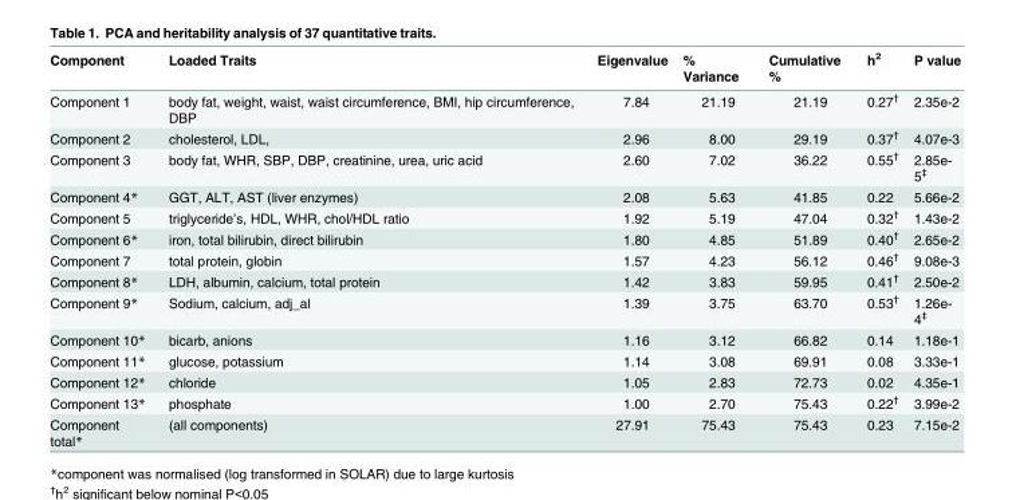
<table><thead><tr><td>Component</td><td>Loaded Traits</td><td>Eigenvalue</td><td>% Variance</td><td>Cumulative %</td><td>h<sup>2</sup></td><td>P value</td></tr></thead><tbody><tr><td>Component 1</td><td>body fat, weight, waist, waist circumference, BMI, hip circumference, DBP</td><td>7.84</td><td>21.19</td><td>21.19</td><td>0.27<sup>†</sup></td><td>2.35e-2</td></tr><tr><td>Component 2</td><td>cholesterol, LDL,</td><td>2.96</td><td>8.00</td><td>29.19</td><td>0.37<sup>†</sup></td><td>4.07e-3</td></tr><tr><td>Component 3</td><td>body fat, WHR, SBP, DBP, creatinine, urea, uric acid</td><td>2.60</td><td>7.02</td><td>36.22</td><td>0.55<sup>†</sup></td><td>2.85e- 5<sup>‡</sup></td></tr><tr><td>Component 4*</td><td>GGT, ALT, AST (liver enzymes)</td><td>2.08</td><td>5.63</td><td>41.85</td><td>0.22</td><td>5.66e-2</td></tr><tr><td>Component 5</td><td>triglyceride’s, HDL, WHR, chol/HDL ratio</td><td>1.92</td><td>5.19</td><td>47.04</td><td>0.32<sup>†</sup></td><td>1.43e-2</td></tr><tr><td>Component 6*</td><td>iron, total bilirubin, direct bilirubin</td><td>1.80</td><td>4.85</td><td>51.89</td><td>0.40<sup>†</sup></td><td>2.65e-2</td></tr><tr><td>Component 7</td><td>total protein, globin</td><td>1.57</td><td>4.23</td><td>56.12</td><td>0.46<sup>†</sup></td><td>9.08e-3</td></tr><tr><td>Component 8*</td><td>LDH, albumin, calcium, total protein</td><td>1.42</td><td>3.83</td><td>59.95</td><td>0.41<sup>†</sup></td><td>2.50e-2</td></tr><tr><td>Component 9*</td><td>Sodium, calcium, adj_al</td><td>1.39</td><td>3.75</td><td>63.70</td><td>0.53<sup>†</sup></td><td>1.26e- 4<sup>‡</sup></td></tr><tr><td>Component 10*</td><td>bicarb, anions</td><td>1.16</td><td>3.12</td><td>66.82</td><td>0.14</td><td>1.18e-1</td></tr><tr><td>Component 11*</td><td>glucose, potassium</td><td>1.14</td><td>3.08</td><td>69.91</td><td>0.08</td><td>3.33e-1</td></tr><tr><td>Component 12*</td><td>chloride</td><td>1.05</td><td>2.83</td><td>72.73</td><td>0.02</td><td>4.35e-1</td></tr><tr><td>Component 13*</td><td>phosphate</td><td>1.00</td><td>2.70</td><td>75.43</td><td>0.22<sup>†</sup></td><td>3.99e-2</td></tr><tr><td>Component total*</td><td>(all components)</td><td>27.91</td><td>75.43</td><td>75.43</td><td>0.23</td><td>7.15e-2</td></tr></tbody></table>